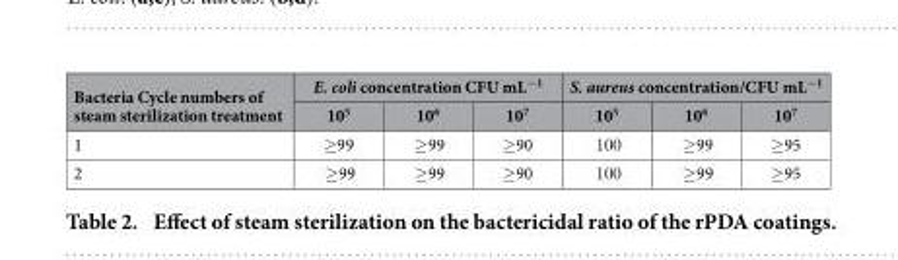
<table><thead><tr><td rowspan="2">Bacteria Cycle numbers of steam sterilization treatment</td><td colspan="3">E. coli concentration CFU mL<sup>−1</sup></td><td colspan="3">S. aureus concentration/CFU mL<sup>−1</sup></td></tr><tr><td>10<sup>5</sup></td><td>10<sup>6</sup></td><td>10<sup>7</sup></td><td>10<sup>5</sup></td><td>10<sup>6</sup></td><td>10<sup>7</sup></td></tr></thead><tbody><tr><td>1</td><td>≥99</td><td>≥99</td><td>≥90</td><td>100</td><td>≥99</td><td>≥95</td></tr><tr><td>2</td><td>≥99</td><td>≥99</td><td>≥90</td><td>100</td><td>≥99</td><td>≥95</td></tr></tbody></table>